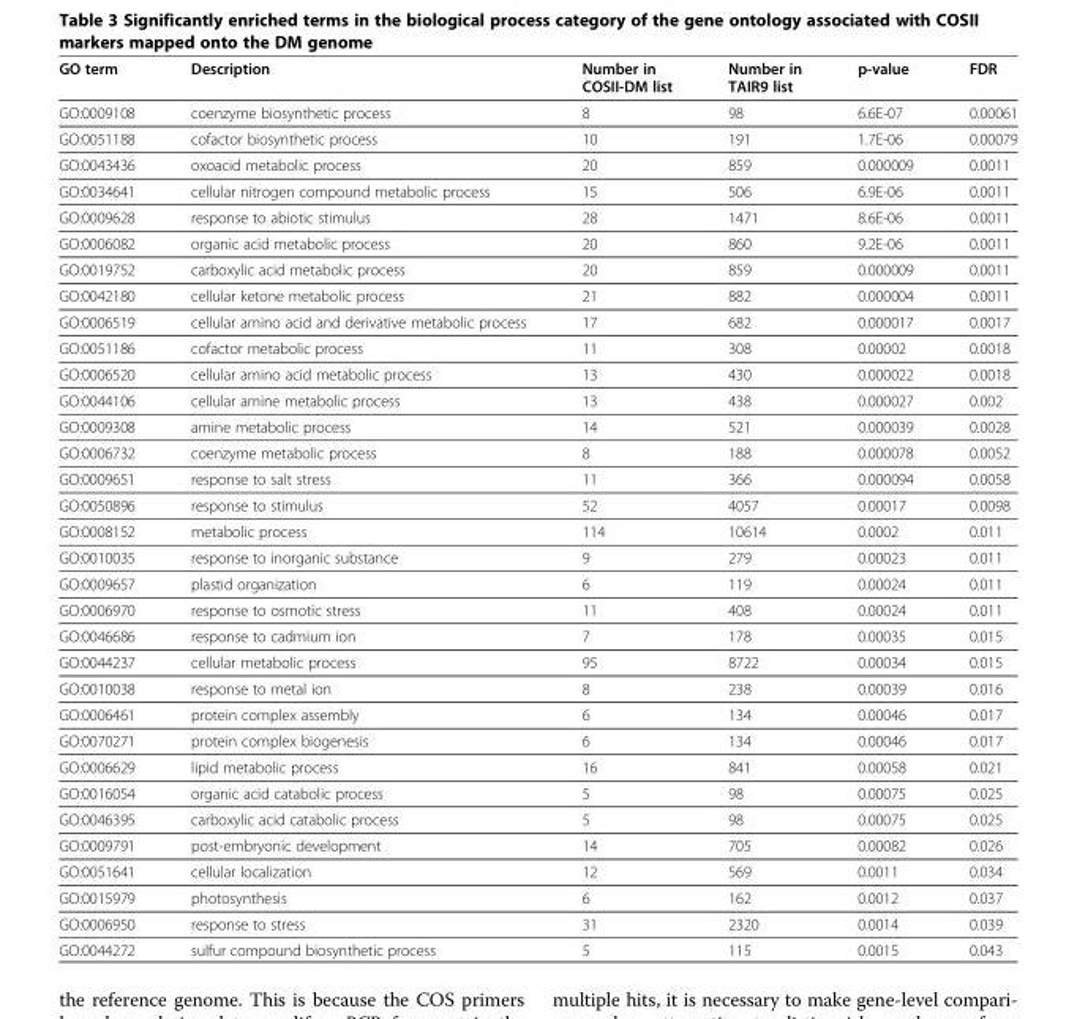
<table><thead><tr><td>GO term</td><td>Description</td><td>Number in COSII-DM list</td><td>Number in TAIR9 list</td><td>p-value</td><td>FDR</td></tr></thead><tbody><tr><td>GO:0009108</td><td>coenzyme biosynthetic process</td><td>8</td><td>98</td><td>6.6E-07</td><td>0.00061</td></tr><tr><td>GO:0051188</td><td>cofactor biosynthetic process</td><td>10</td><td>191</td><td>1.7E-06</td><td>0.00079</td></tr><tr><td>GO:0043436</td><td>oxoacid metabolic process</td><td>20</td><td>859</td><td>0.000009</td><td>0.0011</td></tr><tr><td>GO:0034641</td><td>cellular nitrogen compound metabolic process</td><td>15</td><td>506</td><td>6.9E-06</td><td>0.0011</td></tr><tr><td>GO:0009628</td><td>response to abiotic stimulus</td><td>28</td><td>1471</td><td>8.6E-06</td><td>0.0011</td></tr><tr><td>GO:0006082</td><td>organic acid metabolic process</td><td>20</td><td>860</td><td>9.2E-06</td><td>0.0011</td></tr><tr><td>GO:0019752</td><td>carboxylic acid metabolic process</td><td>20</td><td>859</td><td>0.000009</td><td>0.0011</td></tr><tr><td>GO:0042180</td><td>cellular ketone metabolic process</td><td>21</td><td>882</td><td>0.000004</td><td>0.0011</td></tr><tr><td>GO:0006519</td><td>cellular amino acid and derivative metabolic process</td><td>17</td><td>682</td><td>0.000017</td><td>0.0017</td></tr><tr><td>GO:0051186</td><td>cofactor metabolic process</td><td>11</td><td>308</td><td>0.00002</td><td>0.0018</td></tr><tr><td>GO:0006520</td><td>cellular amino acid metabolic process</td><td>13</td><td>430</td><td>0.000022</td><td>0.0018</td></tr><tr><td>GO:0044106</td><td>cellular amine metabolic process</td><td>13</td><td>438</td><td>0.000027</td><td>0.002</td></tr><tr><td>GO:0009308</td><td>amine metabolic process</td><td>14</td><td>521</td><td>0.000039</td><td>0.0028</td></tr><tr><td>GO:0006732</td><td>coenzyme metabolic process</td><td>8</td><td>188</td><td>0.000078</td><td>0.0052</td></tr><tr><td>GO:0009651</td><td>response to salt stress</td><td>11</td><td>366</td><td>0.000094</td><td>0.0058</td></tr><tr><td>GO:0050896</td><td>response to stimulus</td><td>52</td><td>4057</td><td>0.00017</td><td>0.0098</td></tr><tr><td>GO:0008152</td><td>metabolic process</td><td>114</td><td>10614</td><td>0.0002</td><td>0.011</td></tr><tr><td>GO:0010035</td><td>response to inorganic substance</td><td>9</td><td>279</td><td>0.00023</td><td>0.011</td></tr><tr><td>GO:0009657</td><td>plastid organization</td><td>6</td><td>119</td><td>0.00024</td><td>0.011</td></tr><tr><td>GO:0006970</td><td>response to osmotic stress</td><td>11</td><td>408</td><td>0.00024</td><td>0.011</td></tr><tr><td>GO:0046686</td><td>response to cadmium ion</td><td>7</td><td>178</td><td>0.00035</td><td>0.015</td></tr><tr><td>GO:0044237</td><td>cellular metabolic process</td><td>95</td><td>8722</td><td>0.00034</td><td>0.015</td></tr><tr><td>GO:0010038</td><td>response to metal ion</td><td>8</td><td>238</td><td>0.00039</td><td>0.016</td></tr><tr><td>GO:0006461</td><td>protein complex assembly</td><td>6</td><td>134</td><td>0.00046</td><td>0.017</td></tr><tr><td>GO:0070271</td><td>protein complex biogenesis</td><td>6</td><td>134</td><td>0.00046</td><td>0.017</td></tr><tr><td>GO:0006629</td><td>lipid metabolic process</td><td>16</td><td>841</td><td>0.00058</td><td>0.021</td></tr><tr><td>GO:0016054</td><td>organic acid catabolic process</td><td>5</td><td>98</td><td>0.00075</td><td>0.025</td></tr><tr><td>GO:0046395</td><td>carboxylic acid catabolic process</td><td>5</td><td>98</td><td>0.00075</td><td>0.025</td></tr><tr><td>GO:0009791</td><td>post-embryonic development</td><td>14</td><td>705</td><td>0.00082</td><td>0.026</td></tr><tr><td>GO:0051641</td><td>cellular localization</td><td>12</td><td>569</td><td>0.0011</td><td>0.034</td></tr><tr><td>GO:0015979</td><td>photosynthesis</td><td>6</td><td>162</td><td>0.0012</td><td>0.037</td></tr><tr><td>GO:0006950</td><td>response to stress</td><td>31</td><td>2320</td><td>0.0014</td><td>0.039</td></tr><tr><td>GO:0044272</td><td>sulfur compound biosynthetic process</td><td>5</td><td>115</td><td>0.0015</td><td>0.043</td></tr></tbody></table>